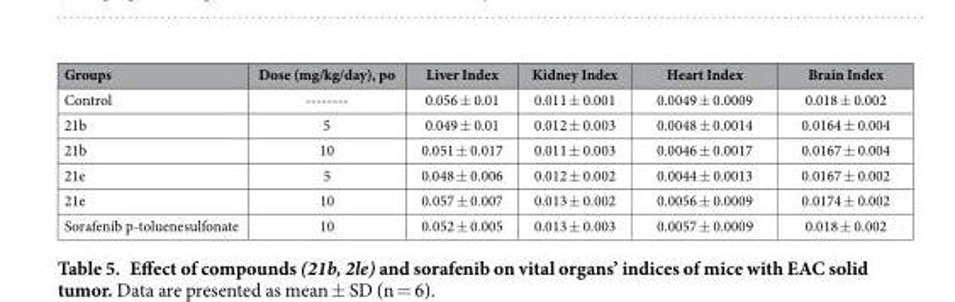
<table><thead><tr><td>Groups</td><td>Dose (mg/kg/day), po</td><td>Liver Index</td><td>Kidney Index</td><td>Heart Index</td><td>Brain Index</td></tr></thead><tbody><tr><td>Control</td><td>--------</td><td>0.056 ± 0.01</td><td>0.011 ± 0.001</td><td>0.0049 ± 0.0009</td><td>0.018 ± 0.002</td></tr><tr><td>21b</td><td>5</td><td>0.049 ± 0.01</td><td>0.012 ± 0.003</td><td>0.0048 ± 0.0014</td><td>0.0164 ± 0.004</td></tr><tr><td>21b</td><td>10</td><td>0.051 ± 0.017</td><td>0.011 ± 0.003</td><td>0.0046 ± 0.0017</td><td>0.0167 ± 0.004</td></tr><tr><td>21e</td><td>5</td><td>0.048 ± 0.006</td><td>0.012 ± 0.002</td><td>0.0044 ± 0.0013</td><td>0.0167 ± 0.002</td></tr><tr><td>21e</td><td>10</td><td>0.057 ± 0.007</td><td>0.013 ± 0.002</td><td>0.0056 ± 0.0009</td><td>0.0174 ± 0.002</td></tr><tr><td>Sorafenib p-toluenesulfonate</td><td>10</td><td>0.052 ± 0.005</td><td>0.013 ± 0.003</td><td>0.0057 ± 0.0009</td><td>0.018 ± 0.002</td></tr></tbody></table>